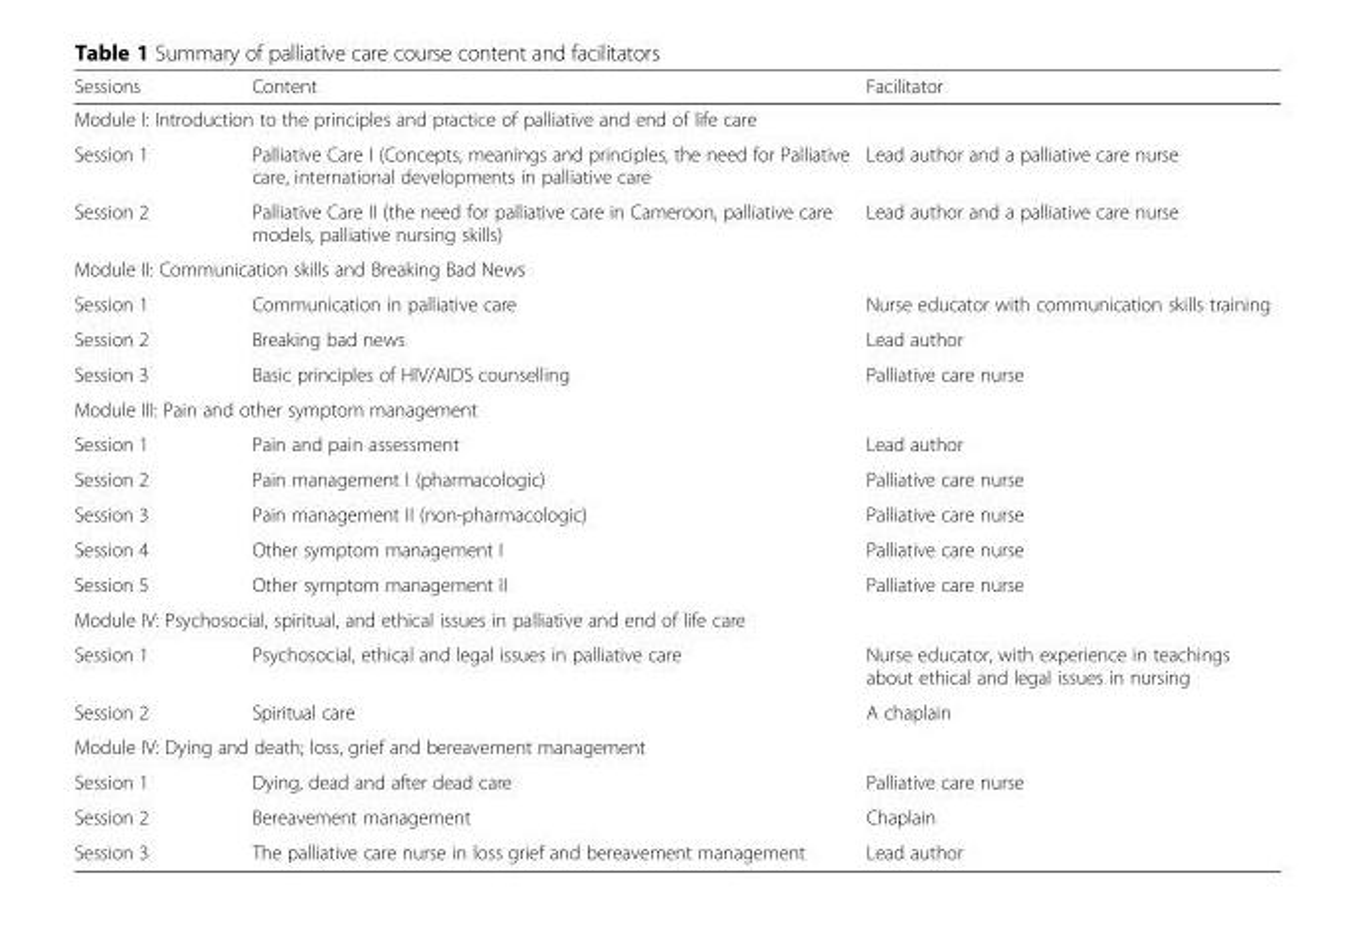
<table><thead><tr><td>Sessions</td><td>Content</td><td>Facilitator</td></tr></thead><tbody><tr><td colspan="3">Module I: Introduction to the principles and practice of palliative and end of life care</td></tr><tr><td>Session 1</td><td>Palliative Care I (Concepts, meanings and principles, the need for Palliative care, international developments in palliative care</td><td>Lead author and a palliative care nurse</td></tr><tr><td>Session 2</td><td>Palliative Care II (the need for palliative care in Cameroon, palliative care models, palliative nursing skills)</td><td>Lead author and a palliative care nurse</td></tr><tr><td colspan="3">Module II: Communication skills and Breaking Bad News</td></tr><tr><td>Session 1</td><td>Communication in palliative care</td><td>Nurse educator with communication skills training</td></tr><tr><td>Session 2</td><td>Breaking bad news</td><td>Lead author</td></tr><tr><td>Session 3</td><td>Basic principles of HIV/AIDS counselling</td><td>Palliative care nurse</td></tr><tr><td colspan="3">Module III: Pain and other symptom management</td></tr><tr><td>Session 1</td><td>Pain and pain assessment</td><td>Lead author</td></tr><tr><td>Session 2</td><td>Pain management I (pharmacologic)</td><td>Palliative care nurse</td></tr><tr><td>Session 3</td><td>Pain management II (non-pharmacologic)</td><td>Palliative care nurse</td></tr><tr><td>Session 4</td><td>Other symptom management I</td><td>Palliative care nurse</td></tr><tr><td>Session 5</td><td>Other symptom management II</td><td>Palliative care nurse</td></tr><tr><td colspan="3">Module IV: Psychosocial, spiritual, and ethical issues in palliative and end of life care</td></tr><tr><td>Session 1</td><td>Psychosocial, ethical and legal issues in palliative care</td><td>Nurse educator, with experience in teachings about ethical and legal issues in nursing</td></tr><tr><td>Session 2</td><td>Spiritual care</td><td>A chaplain</td></tr><tr><td colspan="3">Module IV: Dying and death; loss, grief and bereavement management</td></tr><tr><td>Session 1</td><td>Dying, dead and after dead care</td><td>Palliative care nurse</td></tr><tr><td>Session 2</td><td>Bereavement management</td><td>Chaplain</td></tr><tr><td>Session 3</td><td>The palliative care nurse in loss grief and bereavement management</td><td>Lead author</td></tr></tbody></table>